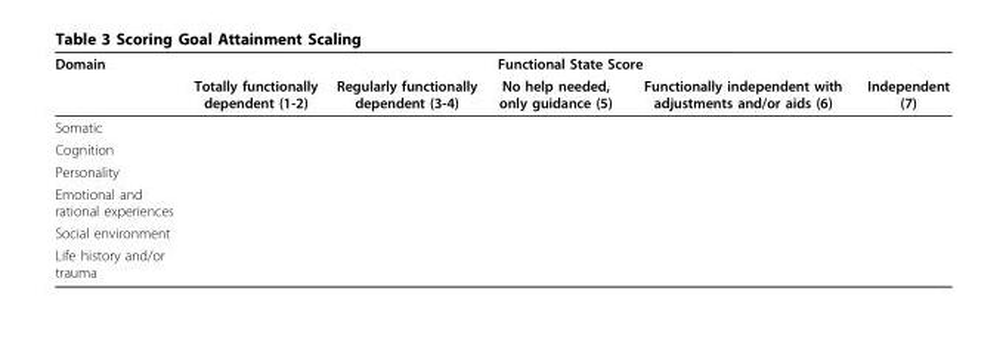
<table><thead><tr><td rowspan="2">Domain</td><td colspan="5">Functional State Score</td></tr><tr><td>Totally functionally dependent (1-2)</td><td>Regularly functionally dependent (3-4)</td><td>No help needed, only guidance (5)</td><td>Functionally independent with adjustments and/or aids (6)</td><td>Independent (7)</td></tr></thead><tbody><tr><td colspan="6">Somatic</td></tr><tr><td colspan="6">Cognition</td></tr><tr><td colspan="6">Personality</td></tr><tr><td colspan="6">Emotional and rational experiences</td></tr><tr><td colspan="6">Social environment</td></tr><tr><td>Life history and/or trauma</td><td></td><td></td><td></td><td></td><td></td></tr></tbody></table>